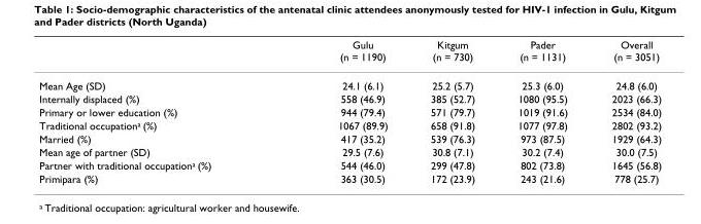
<table><thead><tr><td></td><td>Gulu (n = 1190)</td><td>Kitgum (n = 730)</td><td>Pader (n = 1131)</td><td>Overall (n = 3051)</td></tr></thead><tbody><tr><td>Mean Age (SD)</td><td>24.1 (6.1)</td><td>25.2 (5.7)</td><td>25.3 (6.0)</td><td>24.8 (6.0)</td></tr><tr><td>Internally displaced (%)</td><td>558 (46.9)</td><td>385 (52.7)</td><td>1080 (95.5)</td><td>2023 (66.3)</td></tr><tr><td>Primary or lower education (%)</td><td>944 (79.4)</td><td>571 (79.7)</td><td>1019 (91.6)</td><td>2534 (84.0)</td></tr><tr><td>Traditional occupation<sup>a</sup> (%)</td><td>1067 (89.9)</td><td>658 (91.8)</td><td>1077 (97.8)</td><td>2802 (93.2)</td></tr><tr><td>Married (%)</td><td>417 (35.2)</td><td>539 (76.3)</td><td>973 (87.5)</td><td>1929 (64.3)</td></tr><tr><td>Mean age of partner (SD)</td><td>29.5 (7.6)</td><td>30.8 (7.1)</td><td>30.2 (7.4)</td><td>30.0 (7.5)</td></tr><tr><td>Partner with traditional occupation<sup>a</sup> (%)</td><td>544 (46.0)</td><td>299 (47.8)</td><td>802 (73.8)</td><td>1645 (56.8)</td></tr><tr><td>Primipara (%)</td><td>363 (30.5)</td><td>172 (23.9)</td><td>243 (21.6)</td><td>778 (25.7)</td></tr></tbody></table>